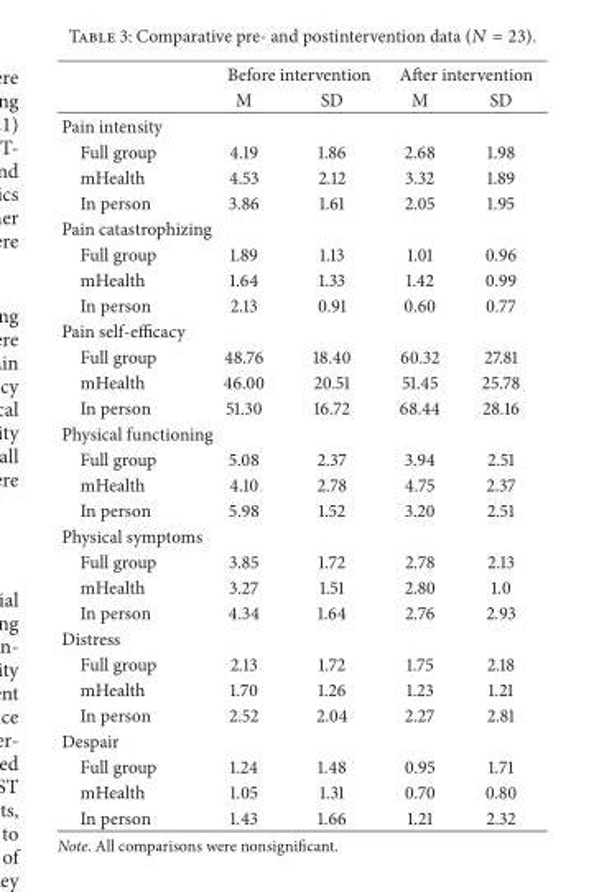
<table><thead><tr><td rowspan="2"></td><td colspan="2">Before intervention</td><td colspan="2">After intervention</td></tr><tr><td>M</td><td>SD</td><td>M</td><td>SD</td></tr></thead><tbody><tr><td colspan="5">Pain intensity</td></tr><tr><td>Full group</td><td>4.19</td><td>1.86</td><td>2.68</td><td>1.98</td></tr><tr><td>mHealth</td><td>4.53</td><td>2.12</td><td>3.32</td><td>1.89</td></tr><tr><td>In person</td><td>3.86</td><td>1.61</td><td>2.05</td><td>1.95</td></tr><tr><td colspan="5">Pain catastrophizing</td></tr><tr><td>Full group</td><td>1.89</td><td>1.13</td><td>1.01</td><td>0.96</td></tr><tr><td>mHealth</td><td>1.64</td><td>1.33</td><td>1.42</td><td>0.99</td></tr><tr><td>In person</td><td>2.13</td><td>0.91</td><td>0.60</td><td>0.77</td></tr><tr><td colspan="5">Pain self-efficacy</td></tr><tr><td>Full group</td><td>48.76</td><td>18.40</td><td>60.32</td><td>27.81</td></tr><tr><td>mHealth</td><td>46.00</td><td>20.51</td><td>51.45</td><td>25.78</td></tr><tr><td>In person</td><td>51.30</td><td>16.72</td><td>68.44</td><td>28.16</td></tr><tr><td colspan="5">Physical functioning</td></tr><tr><td>Full group</td><td>5.08</td><td>2.37</td><td>3.94</td><td>2.51</td></tr><tr><td>mHealth</td><td>4.10</td><td>2.78</td><td>4.75</td><td>2.37</td></tr><tr><td>In person</td><td>5.98</td><td>1.52</td><td>3.20</td><td>2.51</td></tr><tr><td colspan="5">Physical symptoms</td></tr><tr><td>Full group</td><td>3.85</td><td>1.72</td><td>2.78</td><td>2.13</td></tr><tr><td>mHealth</td><td>3.27</td><td>1.51</td><td>2.80</td><td>1.0</td></tr><tr><td>In person</td><td>4.34</td><td>1.64</td><td>2.76</td><td>2.93</td></tr><tr><td colspan="5">Distress</td></tr><tr><td>Full group</td><td>2.13</td><td>1.72</td><td>1.75</td><td>2.18</td></tr><tr><td>mHealth</td><td>1.70</td><td>1.26</td><td>1.23</td><td>1.21</td></tr><tr><td>In person</td><td>2.52</td><td>2.04</td><td>2.27</td><td>2.81</td></tr><tr><td colspan="5">Despair</td></tr><tr><td>Full group</td><td>1.24</td><td>1.48</td><td>0.95</td><td>1.71</td></tr><tr><td>mHealth</td><td>1.05</td><td>1.31</td><td>0.70</td><td>0.80</td></tr><tr><td>In person</td><td>1.43</td><td>1.66</td><td>1.21</td><td>2.32</td></tr></tbody></table>